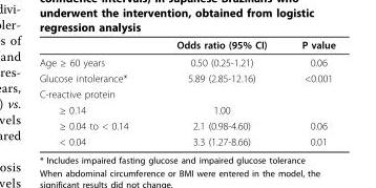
<table><thead><tr><td></td><td>Odds ratio (95% CI)</td><td>P value</td></tr></thead><tbody><tr><td>Age ≥ 60 years</td><td>0.50 (0.25-1.21)</td><td>0.06</td></tr><tr><td>Glucose intolerance*</td><td>5.89 (2.85-12.16)</td><td>&lt;0.001</td></tr><tr><td colspan="3">C-reactive protein</td></tr><tr><td>≥ 0.14</td><td>1.00</td><td></td></tr><tr><td>≥ 0.04 to &lt; 0.14</td><td>2.1 (0.98-4.60)</td><td>0.06</td></tr><tr><td>&lt; 0.04</td><td>3.3 (1.27-8.66)</td><td>0.01</td></tr></tbody></table>